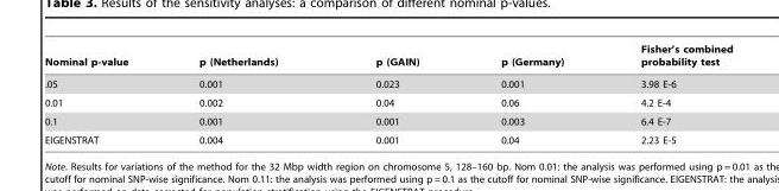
<table><thead><tr><td>Nominal p-value</td><td>p (Netherlands)</td><td>p (GAIN)</td><td>p (Germany)</td><td>Fisher’s combined probability test</td></tr></thead><tbody><tr><td>.05</td><td>0.001</td><td>0.023</td><td>0.001</td><td>3.98 E-6</td></tr><tr><td>0.01</td><td>0.002</td><td>0.04</td><td>0.06</td><td>4.2 E-4</td></tr><tr><td>0.1</td><td>0.001</td><td>0.001</td><td>0.003</td><td>6.4 E-7</td></tr><tr><td>EIGENSTRAT</td><td>0.004</td><td>0.001</td><td>0.04</td><td>2.23 E-5</td></tr></tbody></table>